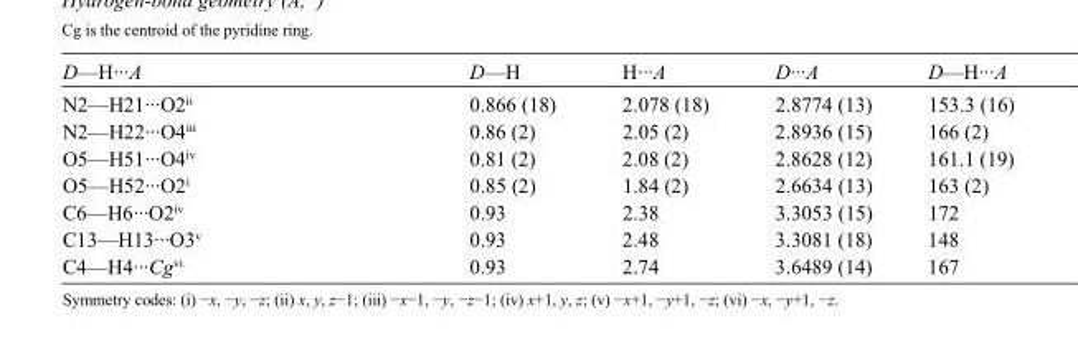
<table><tbody><tr><td>D—H···A</td><td>D—H</td><td>H···A</td><td>D···A</td><td>D—H···A</td></tr><tr><td>N2—H21···O2<sup>ii</sup></td><td>0.866 (18)</td><td>2.078 (18)</td><td>2.8774 (13)</td><td>153.3 (16)</td></tr><tr><td>N2—H22···O4<sup>iii</sup></td><td>0.86 (2)</td><td>2.05 (2)</td><td>2.8936 (15)</td><td>166 (2)</td></tr><tr><td>O5—H51···O4<sup>iv</sup></td><td>0.81 (2)</td><td>2.08 (2)</td><td>2.8628 (12)</td><td>161.1 (19)</td></tr><tr><td>O5—H52···O2<sup>i</sup></td><td>0.85 (2)</td><td>1.84 (2)</td><td>2.6634 (13)</td><td>163 (2)</td></tr><tr><td>C6—H6···O2<sup>iv</sup></td><td>0.93</td><td>2.38</td><td>3.3053 (15)</td><td>172</td></tr><tr><td>C13—H13···O3<sup>v</sup></td><td>0.93</td><td>2.48</td><td>3.3081 (18)</td><td>148</td></tr><tr><td>C4—H4···Cg<sup>vi</sup></td><td>0.93</td><td>2.74</td><td>3.6489 (14)</td><td>167</td></tr></tbody></table>